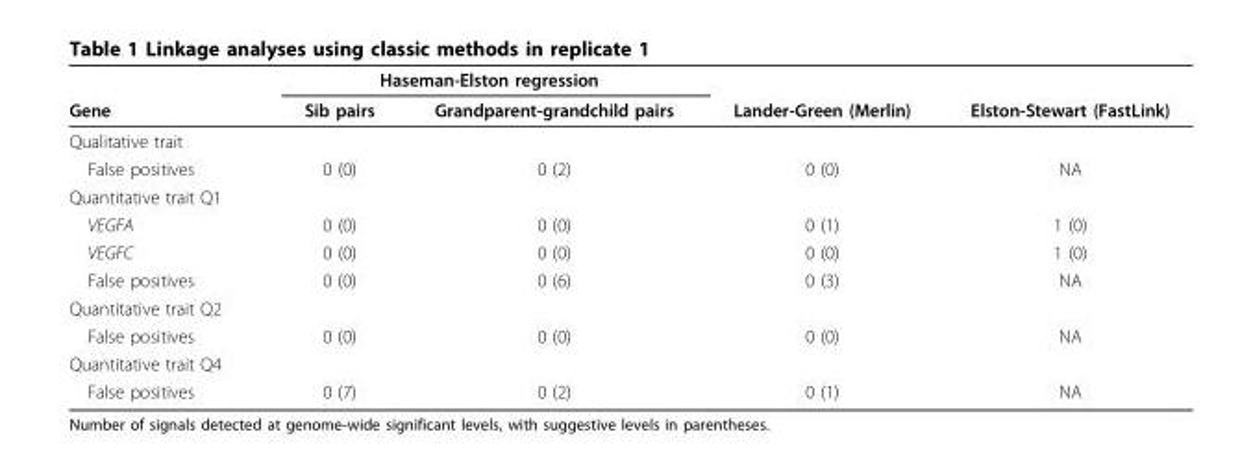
<table><thead><tr><td rowspan="2">Gene</td><td colspan="2">Haseman-Elston regression</td><td rowspan="2">Lander-Green (Merlin)</td><td rowspan="2">Elston-Stewart (FastLink)</td></tr><tr><td>Sib pairs</td><td>Grandparent-grandchild pairs</td></tr></thead><tbody><tr><td colspan="5">Qualitative trait</td></tr><tr><td>False positives</td><td>0 (0)</td><td>0 (2)</td><td>0 (0)</td><td>NA</td></tr><tr><td colspan="5">Quantitative trait Q1</td></tr><tr><td>VEGFA</td><td>0 (0)</td><td>0 (0)</td><td>0 (1)</td><td>1 (0)</td></tr><tr><td>VEGFC</td><td>0 (0)</td><td>0 (0)</td><td>0 (0)</td><td>1 (0)</td></tr><tr><td>False positives</td><td>0 (0)</td><td>0 (6)</td><td>0 (3)</td><td>NA</td></tr><tr><td colspan="5">Quantitative trait Q2</td></tr><tr><td>False positives</td><td>0 (0)</td><td>0 (0)</td><td>0 (0)</td><td>NA</td></tr><tr><td colspan="5">Quantitative trait Q4</td></tr><tr><td>False positives</td><td>0 (7)</td><td>0 (2)</td><td>0 (1)</td><td>NA</td></tr></tbody></table>